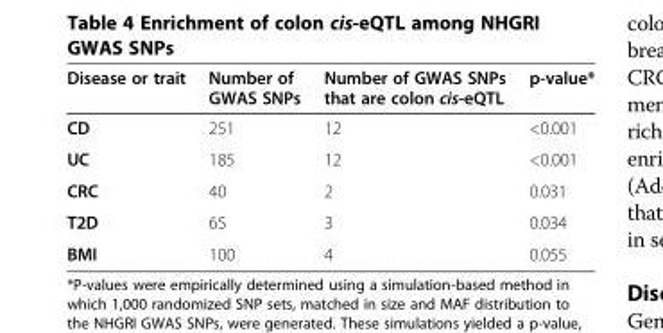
<table><thead><tr><td>Disease or trait</td><td>Number of GWAS SNPs</td><td>Number of GWAS SNPs that are colon cis-eQTL</td><td>p-value*</td></tr></thead><tbody><tr><td>CD</td><td>251</td><td>12</td><td>&lt;0.001</td></tr><tr><td>UC</td><td>185</td><td>12</td><td>&lt;0.001</td></tr><tr><td>CRC</td><td>40</td><td>2</td><td>0.031</td></tr><tr><td>T2D</td><td>65</td><td>3</td><td>0.034</td></tr><tr><td>BMI</td><td>100</td><td>4</td><td>0.055</td></tr></tbody></table>